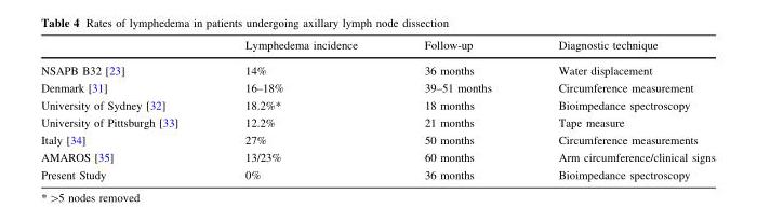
<table><thead><tr><td></td><td>Lymphedema incidence</td><td>Follow-up</td><td>Diagnostic technique</td></tr></thead><tbody><tr><td>NSAPB B32 [23]</td><td>14%</td><td>36 months</td><td>Water displacement</td></tr><tr><td>Denmark [31]</td><td>16–18%</td><td>39–51 months</td><td>Circumference measurement</td></tr><tr><td>University of Sydney [32]</td><td>18.2%*</td><td>18 months</td><td>Bioimpedance spectroscopy</td></tr><tr><td>University of Pittsburgh [33]</td><td>12.2%</td><td>21 months</td><td>Tape measure</td></tr><tr><td>Italy [34]</td><td>27%</td><td>50 months</td><td>Circumference measurements</td></tr><tr><td>AMAROS [35]</td><td>13/23%</td><td>60 months</td><td>Arm circumference/clinical signs</td></tr><tr><td>Present Study</td><td>0%</td><td>36 months</td><td>Bioimpedance spectroscopy</td></tr></tbody></table>